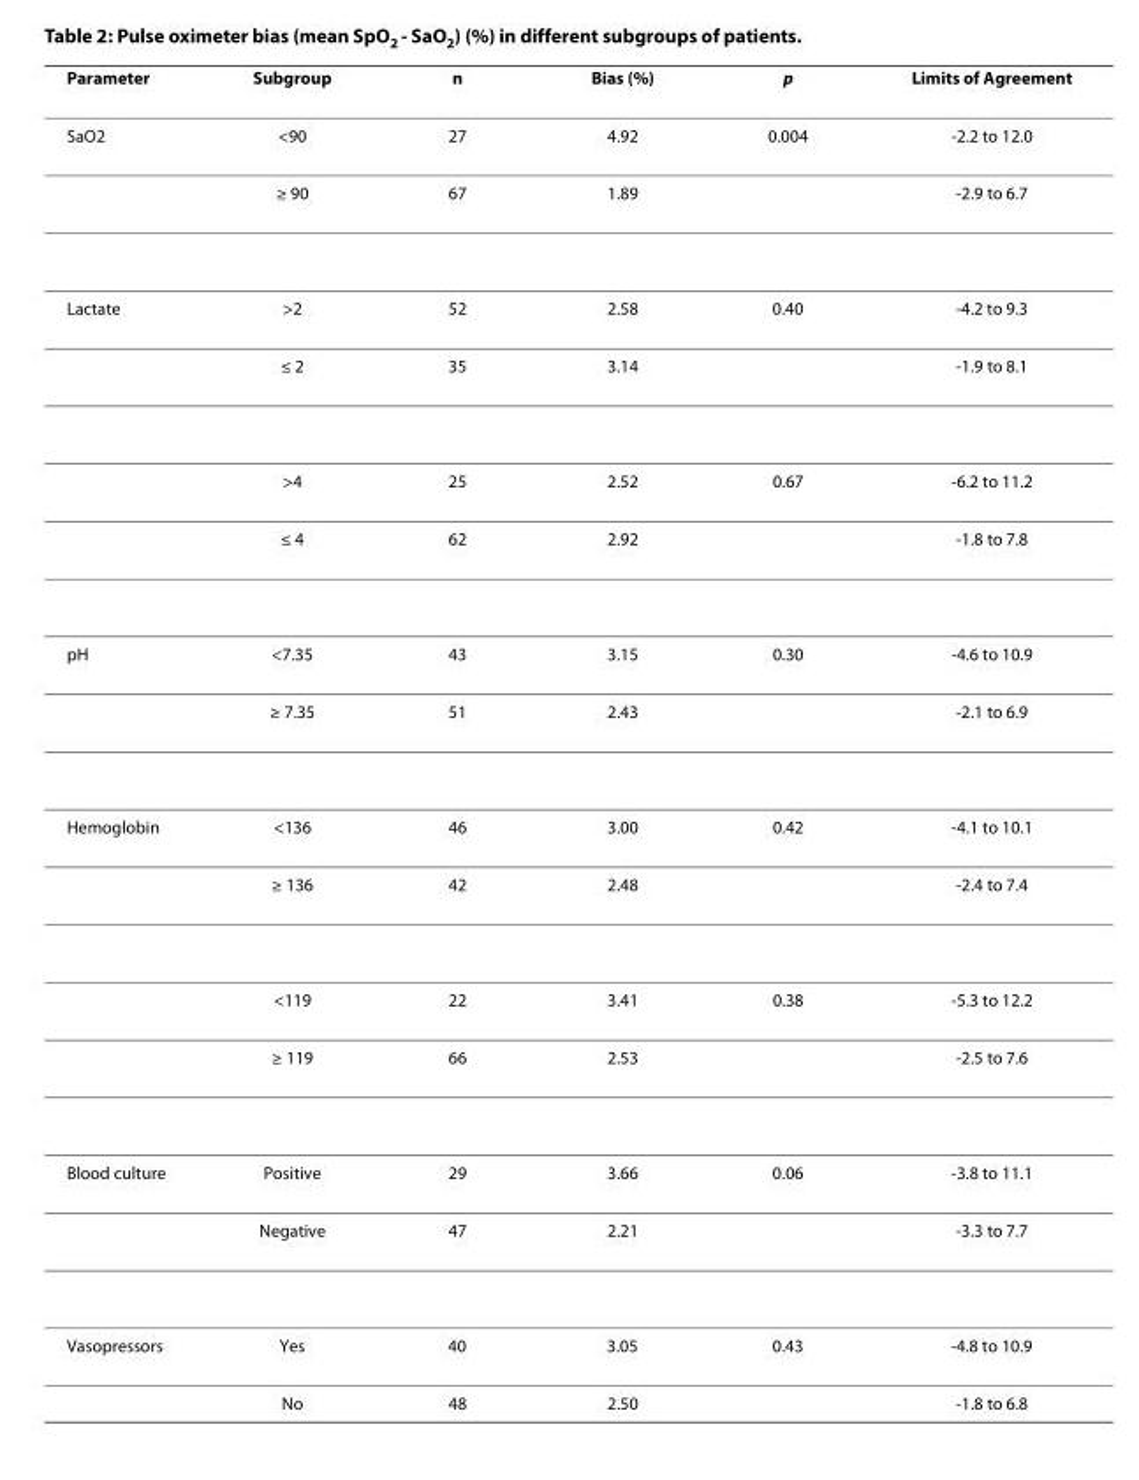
<table><thead><tr><td>Parameter</td><td>Subgroup</td><td>n</td><td>Bias (%)</td><td>p</td><td>Limits of Agreement</td></tr></thead><tbody><tr><td rowspan="2">SaO2</td><td>&lt;90</td><td>27</td><td>4.92</td><td>0.004</td><td>-2.2 to 12.0</td></tr><tr><td>≥ 90</td><td>67</td><td>1.89</td><td></td><td>-2.9 to 6.7</td></tr><tr><td rowspan="4">Lactate</td><td>&gt;2</td><td>52</td><td>2.58</td><td>0.40</td><td>-4.2 to 9.3</td></tr><tr><td>≤ 2</td><td>35</td><td>3.14</td><td></td><td>-1.9 to 8.1</td></tr><tr><td>&gt;4</td><td>25</td><td>2.52</td><td>0.67</td><td>-6.2 to 11.2</td></tr><tr><td>≤ 4</td><td>62</td><td>2.92</td><td></td><td>-1.8 to 7.8</td></tr><tr><td rowspan="2">pH</td><td>&lt;7.35</td><td>43</td><td>3.15</td><td>0.30</td><td>-4.6 to 10.9</td></tr><tr><td>≥ 7.35</td><td>51</td><td>2.43</td><td></td><td>-2.1 to 6.9</td></tr><tr><td rowspan="4">Hemoglobin</td><td>&lt;136</td><td>46</td><td>3.00</td><td>0.42</td><td>-4.1 to 10.1</td></tr><tr><td>≥ 136</td><td>42</td><td>2.48</td><td></td><td>-2.4 to 7.4</td></tr><tr><td>&lt;119</td><td>22</td><td>3.41</td><td>0.38</td><td>-5.3 to 12.2</td></tr><tr><td>≥ 119</td><td>66</td><td>2.53</td><td></td><td>-2.5 to 7.6</td></tr><tr><td rowspan="2">Blood culture</td><td>Positive</td><td>29</td><td>3.66</td><td>0.06</td><td>-3.8 to 11.1</td></tr><tr><td>Negative</td><td>47</td><td>2.21</td><td></td><td>-3.3 to 7.7</td></tr><tr><td rowspan="2">Vasopressors</td><td>Yes</td><td>40</td><td>3.05</td><td>0.43</td><td>-4.8 to 10.9</td></tr><tr><td>No</td><td>48</td><td>2.50</td><td></td><td>-1.8 to 6.8</td></tr></tbody></table>